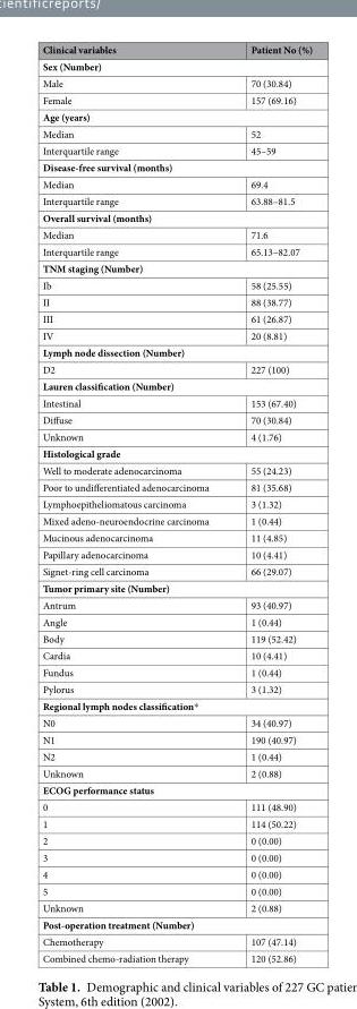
<table><thead><tr><td>Clinical variables</td><td>Patient No (%)</td></tr></thead><tbody><tr><td colspan="2">Sex (Number)</td></tr><tr><td>Male</td><td>70 (30.84)</td></tr><tr><td>Female</td><td>157 (69.16)</td></tr><tr><td colspan="2">Age (years)</td></tr><tr><td>Median</td><td>52</td></tr><tr><td>Interquartile range</td><td>45–59</td></tr><tr><td colspan="2">Disease-free survival (months)</td></tr><tr><td>Median</td><td>69.4</td></tr><tr><td>Interquartile range</td><td>63.88–81.5</td></tr><tr><td colspan="2">Overall survival (months)</td></tr><tr><td>Median</td><td>71.6</td></tr><tr><td>Interquartile range</td><td>65.13–82.07</td></tr><tr><td colspan="2">TNM staging (Number)</td></tr><tr><td>Ib</td><td>58 (25.55)</td></tr><tr><td>II</td><td>88 (38.77)</td></tr><tr><td>III</td><td>61 (26.87)</td></tr><tr><td>IV</td><td>20 (8.81)</td></tr><tr><td colspan="2">Lymph node dissection (Number)</td></tr><tr><td>D2</td><td>227 (100)</td></tr><tr><td colspan="2">Lauren classification (Number)</td></tr><tr><td>Intestinal</td><td>153 (67.40)</td></tr><tr><td>Diffuse</td><td>70 (30.84)</td></tr><tr><td>Unknown</td><td>4 (1.76)</td></tr><tr><td colspan="2">Histological grade</td></tr><tr><td>Well to moderate adenocarcinoma</td><td>55 (24.23)</td></tr><tr><td>Poor to undifferentiated adenocarcinoma</td><td>81 (35.68)</td></tr><tr><td>Lymphoepitheliomatous carcinoma</td><td>3 (1.32)</td></tr><tr><td>Mixed adeno-neuroendocrine carcinoma</td><td>1 (0.44)</td></tr><tr><td>Mucinous adenocarcinoma</td><td>11 (4.85)</td></tr><tr><td>Papillary adenocarcinoma</td><td>10 (4.41)</td></tr><tr><td>Signet-ring cell carcinoma</td><td>66 (29.07)</td></tr><tr><td colspan="2">Tumor primary site (Number)</td></tr><tr><td>Antrum</td><td>93 (40.97)</td></tr><tr><td>Angle</td><td>1 (0.44)</td></tr><tr><td>Body</td><td>119 (52.42)</td></tr><tr><td>Cardia</td><td>10 (4.41)</td></tr><tr><td>Fundus</td><td>1 (0.44)</td></tr><tr><td>Pylorus</td><td>3 (1.32)</td></tr><tr><td colspan="2">Regional lymph nodes classification*</td></tr><tr><td>N0</td><td>34 (40.97)</td></tr><tr><td>N1</td><td>190 (40.97)</td></tr><tr><td>N2</td><td>1 (0.44)</td></tr><tr><td>Unknown</td><td>2 (0.88)</td></tr><tr><td colspan="2">ECOG performance status</td></tr><tr><td>0</td><td>111 (48.90)</td></tr><tr><td>1</td><td>114 (50.22)</td></tr><tr><td>2</td><td>0 (0.00)</td></tr><tr><td>3</td><td>0 (0.00)</td></tr><tr><td>4</td><td>0 (0.00)</td></tr><tr><td>5</td><td>0 (0.00)</td></tr><tr><td>Unknown</td><td>2 (0.88)</td></tr><tr><td colspan="2">Post-operation treatment (Number)</td></tr><tr><td>Chemotherapy</td><td>107 (47.14)</td></tr><tr><td>Combined chemo-radiation therapy</td><td>120 (52.86)</td></tr></tbody></table>